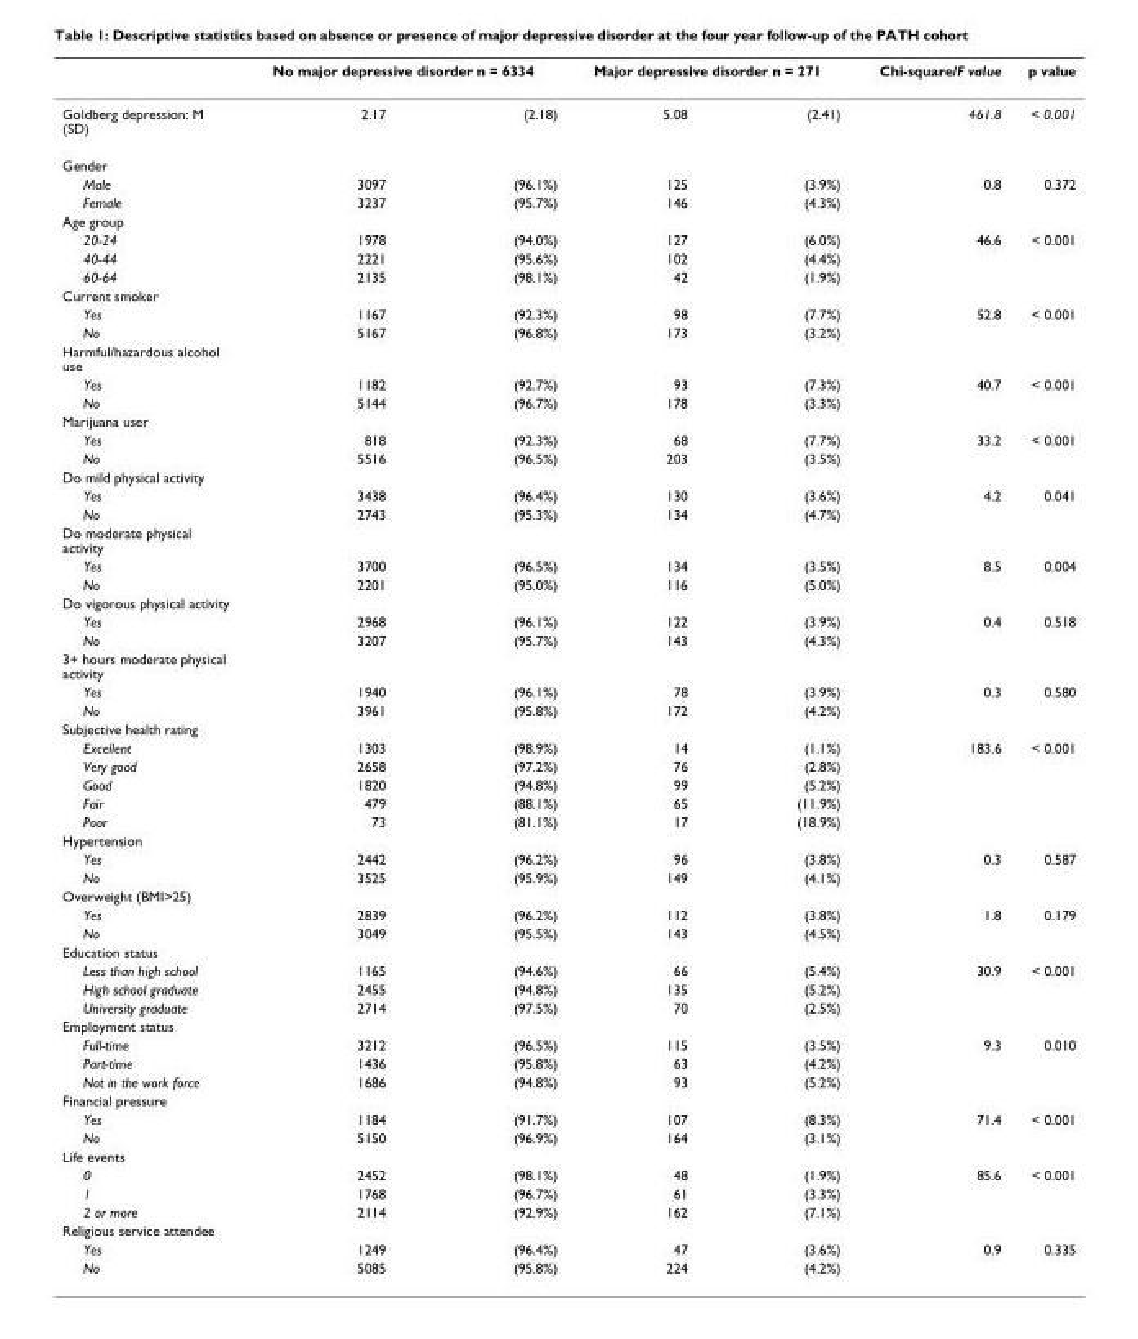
<table><thead><tr><td rowspan="2">Goldberg depression: M (SD)</td><td colspan="2">No major depressive disorder n = 6334</td><td colspan="2">Major depressive disorder n = 271</td><td rowspan="2">Chi-square/F value 461.8</td><td rowspan="2">p value &lt; 0.001</td></tr><tr><td>2.17</td><td>(2.18)</td><td>5.08</td><td>(2.41)</td></tr></thead><tbody><tr><td colspan="7">Gender</td></tr><tr><td>Male</td><td>3097</td><td>(96.1%)</td><td>125</td><td>(3.9%)</td><td>0.8</td><td>0.372</td></tr><tr><td>Female</td><td>3237</td><td>(95.7%)</td><td>146</td><td>(4.3%)</td><td></td><td></td></tr><tr><td colspan="7">Age group</td></tr><tr><td>20-24</td><td>1978</td><td>(94.0%)</td><td>127</td><td>(6.0%)</td><td>46.6</td><td>&lt; 0.001</td></tr><tr><td>40-44</td><td>2221</td><td>(95.6%)</td><td>102</td><td>(4.4%)</td><td></td><td></td></tr><tr><td>60-64</td><td>2135</td><td>(98.1%)</td><td>42</td><td>(1.9%)</td><td></td><td></td></tr><tr><td colspan="7">Current smoker</td></tr><tr><td>Yes</td><td>1167</td><td>(92.3%)</td><td>98</td><td>(7.7%)</td><td>52.8</td><td>&lt; 0.001</td></tr><tr><td>No</td><td>5167</td><td>(96.8%)</td><td>173</td><td>(3.2%)</td><td></td><td></td></tr><tr><td colspan="7">Harmful/hazardous alcohol use</td></tr><tr><td>Yes</td><td>1182</td><td>(92.7%)</td><td>93</td><td>(7.3%)</td><td>40.7</td><td>&lt; 0.001</td></tr><tr><td>No</td><td>5144</td><td>(96.7%)</td><td>178</td><td>(3.3%)</td><td></td><td></td></tr><tr><td colspan="7">Marijuana user</td></tr><tr><td>Yes</td><td>818</td><td>(92.3%)</td><td>68</td><td>(7.7%)</td><td>33.2</td><td>&lt; 0.001</td></tr><tr><td>No</td><td>5516</td><td>(96.5%)</td><td>203</td><td>(3.5%)</td><td></td><td></td></tr><tr><td colspan="7">Do mild physical activity</td></tr><tr><td>Yes</td><td>3438</td><td>(96.4%)</td><td>130</td><td>(3.6%)</td><td>4.2</td><td>0.041</td></tr><tr><td>No</td><td>2743</td><td>(95.3%)</td><td>134</td><td>(4.7%)</td><td></td><td></td></tr><tr><td colspan="7">Do moderate physical activity</td></tr><tr><td>Yes</td><td>3700</td><td>(96.5%)</td><td>134</td><td>(3.5%)</td><td>8.5</td><td>0.004</td></tr><tr><td>No</td><td>2201</td><td>(95.0%)</td><td>116</td><td>(5.0%)</td><td></td><td></td></tr><tr><td colspan="7">Do vigorous physical activity</td></tr><tr><td>Yes</td><td>2968</td><td>(96.1%)</td><td>122</td><td>(3.9%)</td><td>0.4</td><td>0.518</td></tr><tr><td>No</td><td>3207</td><td>(95.7%)</td><td>143</td><td>(4.3%)</td><td></td><td></td></tr><tr><td colspan="7">3+ hours moderate physical activity</td></tr><tr><td>Yes</td><td>1940</td><td>(96.1%)</td><td>78</td><td>(3.9%)</td><td>0.3</td><td>0.580</td></tr><tr><td>No</td><td>3961</td><td>(95.8%)</td><td>172</td><td>(4.2%)</td><td></td><td></td></tr><tr><td colspan="7">Subjective health rating</td></tr><tr><td>Excellent</td><td>1303</td><td>(98.9%)</td><td>14</td><td>(1.1%)</td><td>183.6</td><td>&lt; 0.001</td></tr><tr><td>Very good</td><td>2658</td><td>(97.2%)</td><td>76</td><td>(2.8%)</td><td></td><td></td></tr><tr><td>Good</td><td>1820</td><td>(94.8%)</td><td>99</td><td>(5.2%)</td><td></td><td></td></tr><tr><td>Fair</td><td>479</td><td>(88.1%)</td><td>65</td><td>(11.9%)</td><td></td><td></td></tr><tr><td>Poor</td><td>73</td><td>(81.1%)</td><td>17</td><td>(18.9%)</td><td></td><td></td></tr><tr><td colspan="7">Hypertension</td></tr><tr><td>Yes</td><td>2442</td><td>(96.2%)</td><td>96</td><td>(3.8%)</td><td>0.3</td><td>0.587</td></tr><tr><td>No</td><td>3525</td><td>(95.9%)</td><td>149</td><td>(4.1%)</td><td></td><td></td></tr><tr><td colspan="7">Overweight (BMI&gt;25)</td></tr><tr><td>Yes</td><td>2839</td><td>(96.2%)</td><td>112</td><td>(3.8%)</td><td>1.8</td><td>0.179</td></tr><tr><td>No</td><td>3049</td><td>(95.5%)</td><td>143</td><td>(4.5%)</td><td></td><td></td></tr><tr><td colspan="7">Education status</td></tr><tr><td>Less than high school</td><td>1165</td><td>(94.6%)</td><td>66</td><td>(5.4%)</td><td>30.9</td><td>&lt; 0.001</td></tr><tr><td>High school graduate</td><td>2455</td><td>(94.8%)</td><td>135</td><td>(5.2%)</td><td></td><td></td></tr><tr><td>University graduate</td><td>2714</td><td>(97.5%)</td><td>70</td><td>(2.5%)</td><td></td><td></td></tr><tr><td colspan="7">Employment status</td></tr><tr><td>Full-time</td><td>3212</td><td>(96.5%)</td><td>115</td><td>(3.5%)</td><td>9.3</td><td>0.010</td></tr><tr><td>Part-time</td><td>1436</td><td>(95.8%)</td><td>63</td><td>(4.2%)</td><td></td><td></td></tr><tr><td>Not in the work force</td><td>1686</td><td>(94.8%)</td><td>93</td><td>(5.2%)</td><td></td><td></td></tr><tr><td colspan="7">Financial pressure</td></tr><tr><td>Yes</td><td>1184</td><td>(91.7%)</td><td>107</td><td>(8.3%)</td><td>71.4</td><td>&lt; 0.001</td></tr><tr><td>No</td><td>5150</td><td>(96.9%)</td><td>164</td><td>(3.1%)</td><td></td><td></td></tr><tr><td colspan="7">Life events</td></tr><tr><td>0</td><td>2452</td><td>(98.1%)</td><td>48</td><td>(1.9%)</td><td>85.6</td><td>&lt; 0.001</td></tr><tr><td>1</td><td>1768</td><td>(96.7%)</td><td>61</td><td>(3.3%)</td><td></td><td></td></tr><tr><td>2 or more</td><td>2114</td><td>(92.9%)</td><td>162</td><td>(7.1%)</td><td></td><td></td></tr><tr><td colspan="7">Religious service attendee</td></tr><tr><td>Yes</td><td>1249</td><td>(96.4%)</td><td>47</td><td>(3.6%)</td><td>0.9</td><td>0.335</td></tr><tr><td>No</td><td>5085</td><td>(95.8%)</td><td>224</td><td>(4.2%)</td><td></td><td></td></tr></tbody></table>